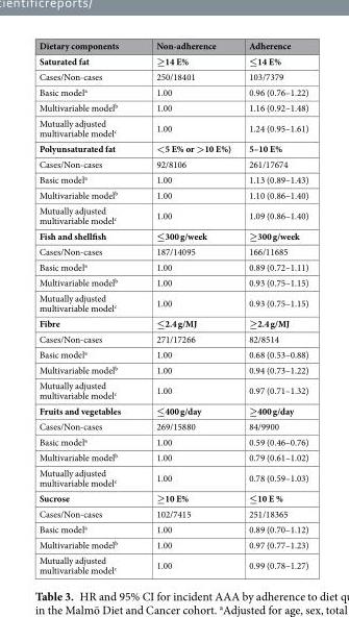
<table><thead><tr><td>Dietary components</td><td>Non-adherence</td><td>Adherence</td></tr></thead><tbody><tr><td>Saturated fat</td><td>≥14 E%</td><td>≤14 E%</td></tr><tr><td>Cases/Non-cases</td><td>250/18401</td><td>103/7379</td></tr><tr><td>Basic model<sup>a</sup></td><td>1.00</td><td>0.96 (0.76–1.22)</td></tr><tr><td>Multivariable model<sup>b</sup></td><td>1.00</td><td>1.16 (0.92–1.48)</td></tr><tr><td>Mutually adjusted multivariable model<sup>c</sup></td><td>1.00</td><td>1.24 (0.95–1.61)</td></tr><tr><td>Polyunsaturated fat</td><td>&lt;5 E% or &gt;10 E%)</td><td>5–10 E%</td></tr><tr><td>Cases/Non-cases</td><td>92/8106</td><td>261/17674</td></tr><tr><td>Basic model<sup>a</sup></td><td>1.00</td><td>1.13 (0.89–1.43)</td></tr><tr><td>Multivariable model<sup>b</sup></td><td>1.00</td><td>1.10 (0.86–1.40)</td></tr><tr><td>Mutually adjusted multivariable model<sup>c</sup></td><td>1.00</td><td>1.09 (0.86–1.40)</td></tr><tr><td>Fish and shellfish</td><td>≤300 g/week</td><td>≥300 g/week</td></tr><tr><td>Cases/Non-cases</td><td>187/14095</td><td>166/11685</td></tr><tr><td>Basic model<sup>a</sup></td><td>1.00</td><td>0.89 (0.72–1.11)</td></tr><tr><td>Multivariable model<sup>b</sup></td><td>1.00</td><td>0.93 (0.75–1.15)</td></tr><tr><td>Mutually adjusted multivariable model<sup>c</sup></td><td>1.00</td><td>0.93 (0.75–1.15)</td></tr><tr><td>Fibre</td><td>≤2.4 g/MJ</td><td>≥2.4 g/MJ</td></tr><tr><td>Cases/Non-cases</td><td>271/17266</td><td>82/8514</td></tr><tr><td>Basic model<sup>a</sup></td><td>1.00</td><td>0.68 (0.53–0.88)</td></tr><tr><td>Multivariable model<sup>b</sup></td><td>1.00</td><td>0.94 (0.73–1.22)</td></tr><tr><td>Mutually adjusted multivariable model<sup>c</sup></td><td>1.00</td><td>0.97 (0.71–1.32)</td></tr><tr><td>Fruits and vegetables</td><td>≤400 g/day</td><td>≥400 g/day</td></tr><tr><td>Cases/Non-cases</td><td>269/15880</td><td>84/9900</td></tr><tr><td>Basic model<sup>a</sup></td><td>1.00</td><td>0.59 (0.46–0.76)</td></tr><tr><td>Multivariable model<sup>b</sup></td><td>1.00</td><td>0.79 (0.61–1.02)</td></tr><tr><td>Mutually adjusted multivariable model<sup>c</sup></td><td>1.00</td><td>0.78 (0.59–1.03)</td></tr><tr><td>Sucrose</td><td>≥10 E%</td><td>≤10 E %</td></tr><tr><td>Cases/Non-cases</td><td>102/7415</td><td>251/18365</td></tr><tr><td>Basic model<sup>a</sup></td><td>1.00</td><td>0.89 (0.70–1.12)</td></tr><tr><td>Multivariable model<sup>b</sup></td><td>1.00</td><td>0.97 (0.77–1.23)</td></tr><tr><td>Mutually adjusted multivariable model<sup>c</sup></td><td>1.00</td><td>0.99 (0.78–1.27)</td></tr></tbody></table>